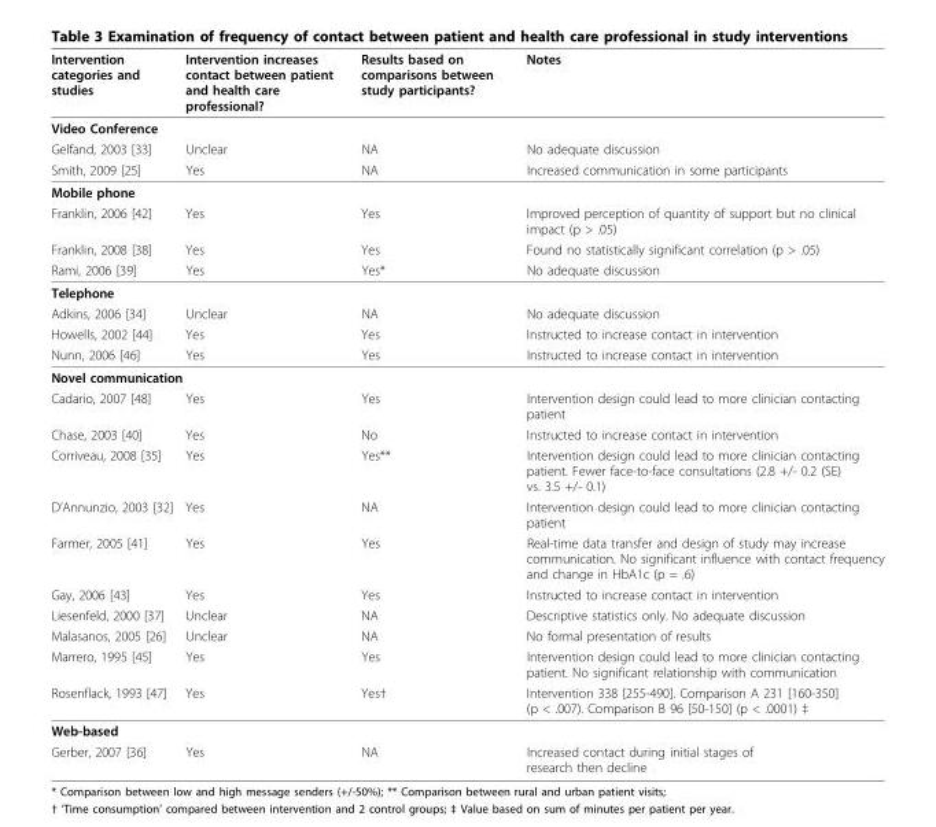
<table><thead><tr><td>Intervention categories and studies</td><td>Intervention increases contact between patient and health care professional?</td><td>Results based on comparisons between study participants?</td><td>Notes</td></tr></thead><tbody><tr><td colspan="4">Video Conference</td></tr><tr><td>Gelfand, 2003 [33]</td><td>Unclear</td><td>NA</td><td>No adequate discussion</td></tr><tr><td>Smith, 2009 [25]</td><td>Yes</td><td>NA</td><td>Increased communication in some participants</td></tr><tr><td colspan="4">Mobile phone</td></tr><tr><td>Franklin, 2006 [42]</td><td>Yes</td><td>Yes</td><td>Improved perception of quantity of support but no clinical impact (p &gt; .05)</td></tr><tr><td>Franklin, 2008 [38]</td><td>Yes</td><td>Yes</td><td>Found no statistically significant correlation (p &gt; .05)</td></tr><tr><td>Rami, 2006 [39]</td><td>Yes</td><td>Yes*</td><td>No adequate discussion</td></tr><tr><td colspan="4">Telephone</td></tr><tr><td>Adkins, 2006 [34]</td><td>Unclear</td><td>NA</td><td>No adequate discussion</td></tr><tr><td>Howells, 2002 [44]</td><td>Yes</td><td>Yes</td><td>Instructed to increase contact in intervention</td></tr><tr><td>Nunn, 2006 [46]</td><td>Yes</td><td>Yes</td><td>Instructed to increase contact in intervention</td></tr><tr><td colspan="4">Novel communication</td></tr><tr><td>Cadario, 2007 [48]</td><td>Yes</td><td>Yes</td><td>Intervention design could lead to more clinician contacting patient</td></tr><tr><td>Chase, 2003 [40]</td><td>Yes</td><td>No</td><td>Instructed to increase contact in intervention</td></tr><tr><td>Corriveau, 2008 [35]</td><td>Yes</td><td>Yes**</td><td>Intervention design could lead to more clinician contacting patient. Fewer face-to-face consultations (2.8 +/- 0.2 (SE) vs. 3.5 +/- 0.1)</td></tr><tr><td>D’Annunzio, 2003 [32]</td><td>Yes</td><td>NA</td><td>Intervention design could lead to more clinician contacting patient</td></tr><tr><td>Farmer, 2005 [41]</td><td>Yes</td><td>Yes</td><td>Real-time data transfer and design of study may increase communication. No significant influence with contact frequency and change in HbA1c (p = .6)</td></tr><tr><td>Gay, 2006 [43]</td><td>Yes</td><td>Yes</td><td>Instructed to increase contact in intervention</td></tr><tr><td>Liesenfeld, 2000 [37]</td><td>Unclear</td><td>NA</td><td>Descriptive statistics only. No adequate discussion</td></tr><tr><td>Malasanos, 2005 [26]</td><td>Unclear</td><td>NA</td><td>No formal presentation of results</td></tr><tr><td>Marrero, 1995 [45]</td><td>Yes</td><td>Yes</td><td>Intervention design could lead to more clinician contacting patient. No significant relationship with communication</td></tr><tr><td>Rosenflack, 1993 [47]</td><td>Yes</td><td>Yes†</td><td>Intervention 338 [255-490]. Comparison A 231 [160-350] (p &lt; .007). Comparison B 96 [50-150] (p &lt; .0001) ‡</td></tr><tr><td colspan="4">Web-based</td></tr><tr><td>Gerber, 2007 [36]</td><td>Yes</td><td>NA</td><td>Increased contact during initial stages of research then decline</td></tr></tbody></table>